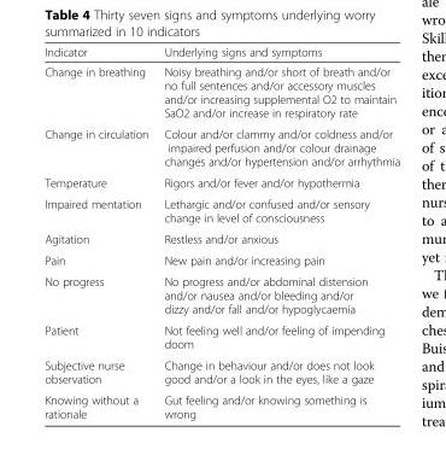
<table><thead><tr><td>Indicator</td><td>Underlying signs and symptoms</td></tr></thead><tbody><tr><td>Change in breathing</td><td>Noisy breathing and/or short of breath and/or no full sentences and/or accessory muscles and/or increasing supplemental O2 to maintain SaO2 and/or increase in respiratory rate</td></tr><tr><td>Change in circulation</td><td>Colour and/or clammy and/or coldness and/or impaired perfusion and/or colour drainage changes and/or hypertension and/or arrhythmia</td></tr><tr><td>Temperature</td><td>Rigors and/or fever and/or hypothermia</td></tr><tr><td>Impaired mentation</td><td>Lethargic and/or confused and/or sensory change in level of consciousness</td></tr><tr><td>Agitation</td><td>Restless and/or anxious</td></tr><tr><td>Pain</td><td>New pain and/or increasing pain</td></tr><tr><td>No progress</td><td>No progress and/or abdominal distension and/or nausea and/or bleeding and/or dizzy and/or fall and/or hypoglycaemia</td></tr><tr><td>Patient</td><td>Not feeling well and/or feeling of impending doom</td></tr><tr><td>Subjective nurse observation</td><td>Change in behaviour and/or does not look good and/or a look in the eyes, like a gaze</td></tr><tr><td>Knowing without a rationale</td><td>Gut feeling and/or knowing something is wrong</td></tr></tbody></table>